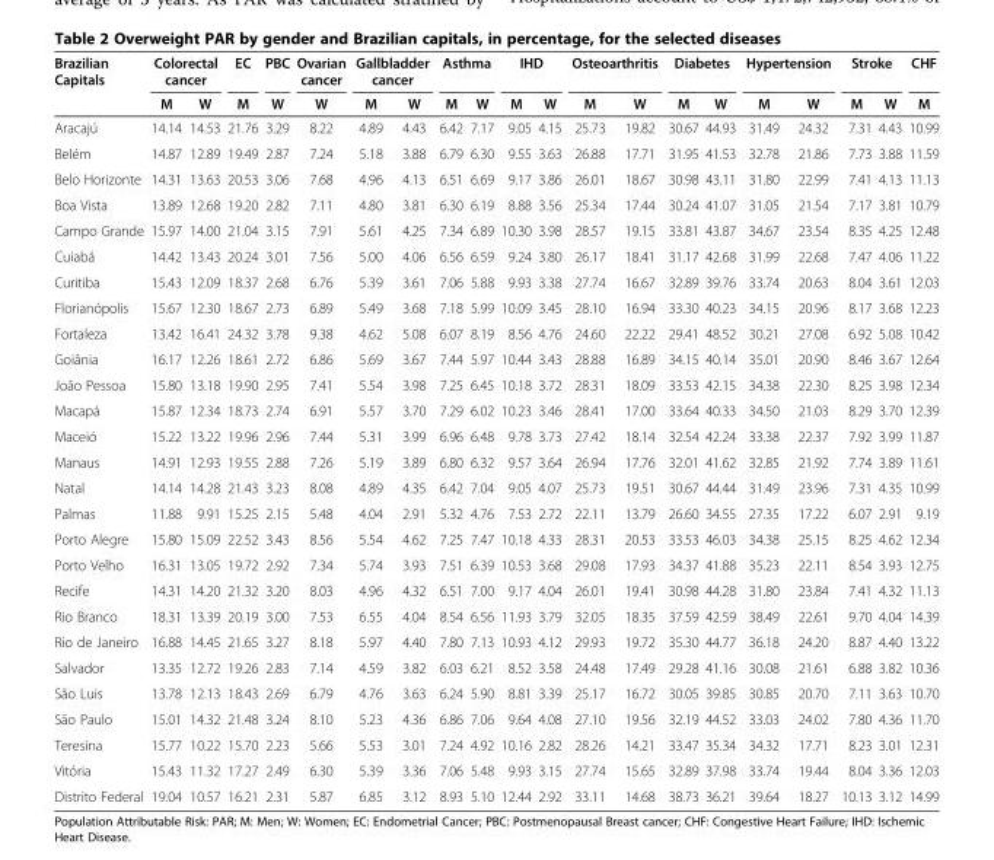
<table><thead><tr><td rowspan="2">Brazilian Capitals</td><td colspan="2">Colorectal cancer</td><td rowspan="2">EC M</td><td rowspan="2">PBC W</td><td rowspan="2">Ovarian cancer W</td><td colspan="2">Gallbladder cancer</td><td colspan="2">Asthma</td><td colspan="2">IHD</td><td colspan="2">Osteoarthritis</td><td colspan="2">Diabetes</td><td colspan="2">Hypertension</td><td colspan="2">Stroke</td><td rowspan="2">CHF M</td></tr><tr><td>M</td><td>W</td><td>M</td><td>W</td><td>M</td><td>W</td><td>M</td><td>W</td><td>M</td><td>W</td><td>M</td><td>W</td><td>M</td><td>W</td><td>M</td><td>W</td></tr></thead><tbody><tr><td>Aracajú</td><td>14.14</td><td>14.53</td><td>21.76</td><td>3.29</td><td>8.22</td><td>4.89</td><td>4.43</td><td>6.42</td><td>7.17</td><td>9.05</td><td>4.15</td><td>25.73</td><td>19.82</td><td>30.67</td><td>44.93</td><td>31.49</td><td>24.32</td><td>7.31</td><td>4.43</td><td>10.99</td></tr><tr><td>Belém</td><td>14.87</td><td>12.89</td><td>19.49</td><td>2.87</td><td>7.24</td><td>5.18</td><td>3.88</td><td>6.79</td><td>6.30</td><td>9.55</td><td>3.63</td><td>26.88</td><td>17.71</td><td>31.95</td><td>41.53</td><td>32.78</td><td>21.86</td><td>7.73</td><td>3.88</td><td>11.59</td></tr><tr><td>Belo Horizonte</td><td>14.31</td><td>13.63</td><td>20.53</td><td>3.06</td><td>7.68</td><td>4.96</td><td>4.13</td><td>6.51</td><td>6.69</td><td>9.17</td><td>3.86</td><td>26.01</td><td>18.67</td><td>30.98</td><td>43.11</td><td>31.80</td><td>22.99</td><td>7.41</td><td>4.13</td><td>11.13</td></tr><tr><td>Boa Vista</td><td>13.89</td><td>12.68</td><td>19.20</td><td>2.82</td><td>7.11</td><td>4.80</td><td>3.81</td><td>6.30</td><td>6.19</td><td>8.88</td><td>3.56</td><td>25.34</td><td>17.44</td><td>30.24</td><td>41.07</td><td>31.05</td><td>21.54</td><td>7.17</td><td>3.81</td><td>10.79</td></tr><tr><td>Campo Grande</td><td>15.97</td><td>14.00</td><td>21.04</td><td>3.15</td><td>7.91</td><td>5.61</td><td>4.25</td><td>7.34</td><td>6.89</td><td>10.30</td><td>3.98</td><td>28.57</td><td>19.15</td><td>33.81</td><td>43.87</td><td>34.67</td><td>23.54</td><td>8.35</td><td>4.25</td><td>12.48</td></tr><tr><td>Cuiabá</td><td>14.42</td><td>13.43</td><td>20.24</td><td>3.01</td><td>7.56</td><td>5.00</td><td>4.06</td><td>6.56</td><td>6.59</td><td>9.24</td><td>3.80</td><td>26.17</td><td>18.41</td><td>31.17</td><td>42.68</td><td>31.99</td><td>22.68</td><td>7.47</td><td>4.06</td><td>11.22</td></tr><tr><td>Curitiba</td><td>15.43</td><td>12.09</td><td>18.37</td><td>2.68</td><td>6.76</td><td>5.39</td><td>3.61</td><td>7.06</td><td>5.88</td><td>9.93</td><td>3.38</td><td>27.74</td><td>16.67</td><td>32.89</td><td>39.76</td><td>33.74</td><td>20.63</td><td>8.04</td><td>3.61</td><td>12.03</td></tr><tr><td>Florianópolis</td><td>15.67</td><td>12.30</td><td>18.67</td><td>2.73</td><td>6.89</td><td>5.49</td><td>3.68</td><td>7.18</td><td>5.99</td><td>10.09</td><td>3.45</td><td>28.10</td><td>16.94</td><td>33.30</td><td>40.23</td><td>34.15</td><td>20.96</td><td>8.17</td><td>3.68</td><td>12.23</td></tr><tr><td>Fortaleza</td><td>13.42</td><td>16.41</td><td>24.32</td><td>3.78</td><td>9.38</td><td>4.62</td><td>5.08</td><td>6.07</td><td>8.19</td><td>8.56</td><td>4.76</td><td>24.60</td><td>22.22</td><td>29.41</td><td>48.52</td><td>30.21</td><td>27.08</td><td>6.92</td><td>5.08</td><td>10.42</td></tr><tr><td>Goiânia</td><td>16.17</td><td>12.26</td><td>18.61</td><td>2.72</td><td>6.86</td><td>5.69</td><td>3.67</td><td>7.44</td><td>5.97</td><td>10.44</td><td>3.43</td><td>28.88</td><td>16.89</td><td>34.15</td><td>40.14</td><td>35.01</td><td>20.90</td><td>8.46</td><td>3.67</td><td>12.64</td></tr><tr><td>João Pessoa</td><td>15.80</td><td>13.18</td><td>19.90</td><td>2.95</td><td>7.41</td><td>5.54</td><td>3.98</td><td>7.25</td><td>6.45</td><td>10.18</td><td>3.72</td><td>28.31</td><td>18.09</td><td>33.53</td><td>42.15</td><td>34.38</td><td>22.30</td><td>8.25</td><td>3.98</td><td>12.34</td></tr><tr><td>Macapá</td><td>15.87</td><td>12.34</td><td>18.73</td><td>2.74</td><td>6.91</td><td>5.57</td><td>3.70</td><td>7.29</td><td>6.02</td><td>10.23</td><td>3.46</td><td>28.41</td><td>17.00</td><td>33.64</td><td>40.33</td><td>34.50</td><td>21.03</td><td>8.29</td><td>3.70</td><td>12.39</td></tr><tr><td>Maceió</td><td>15.22</td><td>13.22</td><td>19.96</td><td>2.96</td><td>7.44</td><td>5.31</td><td>3.99</td><td>6.96</td><td>6.48</td><td>9.78</td><td>3.73</td><td>27.42</td><td>18.14</td><td>32.54</td><td>42.24</td><td>33.38</td><td>22.37</td><td>7.92</td><td>3.99</td><td>11.87</td></tr><tr><td>Manaus</td><td>14.91</td><td>12.93</td><td>19.55</td><td>2.88</td><td>7.26</td><td>5.19</td><td>3.89</td><td>6.80</td><td>6.32</td><td>9.57</td><td>3.64</td><td>26.94</td><td>17.76</td><td>32.01</td><td>41.62</td><td>32.85</td><td>21.92</td><td>7.74</td><td>3.89</td><td>11.61</td></tr><tr><td>Natal</td><td>14.14</td><td>14.28</td><td>21.43</td><td>3.23</td><td>8.08</td><td>4.89</td><td>4.35</td><td>6.42</td><td>7.04</td><td>9.05</td><td>4.07</td><td>25.73</td><td>19.51</td><td>30.67</td><td>44.44</td><td>31.49</td><td>23.96</td><td>7.31</td><td>4.35</td><td>10.99</td></tr><tr><td>Palmas</td><td>11.88</td><td>9.91</td><td>15.25</td><td>2.15</td><td>5.48</td><td>4.04</td><td>2.91</td><td>5.32</td><td>4.76</td><td>7.53</td><td>2.72</td><td>22.11</td><td>13.79</td><td>26.60</td><td>34.55</td><td>27.35</td><td>17.22</td><td>6.07</td><td>2.91</td><td>9.19</td></tr><tr><td>Porto Alegre</td><td>15.80</td><td>15.09</td><td>22.52</td><td>3.43</td><td>8.56</td><td>5.54</td><td>4.62</td><td>7.25</td><td>7.47</td><td>10.18</td><td>4.33</td><td>28.31</td><td>20.53</td><td>33.53</td><td>46.03</td><td>34.38</td><td>25.15</td><td>8.25</td><td>4.62</td><td>12.34</td></tr><tr><td>Porto Velho</td><td>16.31</td><td>13.05</td><td>19.72</td><td>2.92</td><td>7.34</td><td>5.74</td><td>3.93</td><td>7.51</td><td>6.39</td><td>10.53</td><td>3.68</td><td>29.08</td><td>17.93</td><td>34.37</td><td>41.88</td><td>35.23</td><td>22.11</td><td>8.54</td><td>3.93</td><td>12.75</td></tr><tr><td>Recife</td><td>14.31</td><td>14.20</td><td>21.32</td><td>3.20</td><td>8.03</td><td>4.96</td><td>4.32</td><td>6.51</td><td>7.00</td><td>9.17</td><td>4.04</td><td>26.01</td><td>19.41</td><td>30.98</td><td>44.28</td><td>31.80</td><td>23.84</td><td>7.41</td><td>4.32</td><td>11.13</td></tr><tr><td>Rio Branco</td><td>18.31</td><td>13.39</td><td>20.19</td><td>3.00</td><td>7.53</td><td>6.55</td><td>4.04</td><td>8.54</td><td>6.56</td><td>11.93</td><td>3.79</td><td>32.05</td><td>18.35</td><td>37.59</td><td>42.59</td><td>38.49</td><td>22.61</td><td>9.70</td><td>4.04</td><td>14.39</td></tr><tr><td>Rio de Janeiro</td><td>16.88</td><td>14.45</td><td>21.65</td><td>3.27</td><td>8.18</td><td>5.97</td><td>4.40</td><td>7.80</td><td>7.13</td><td>10.93</td><td>4.12</td><td>29.93</td><td>19.72</td><td>35.30</td><td>44.77</td><td>36.18</td><td>24.20</td><td>8.87</td><td>4.40</td><td>13.22</td></tr><tr><td>Salvador</td><td>13.35</td><td>12.72</td><td>19.26</td><td>2.83</td><td>7.14</td><td>4.59</td><td>3.82</td><td>6.03</td><td>6.21</td><td>8.52</td><td>3.58</td><td>24.48</td><td>17.49</td><td>29.28</td><td>41.16</td><td>30.08</td><td>21.61</td><td>6.88</td><td>3.82</td><td>10.36</td></tr><tr><td>São Luis</td><td>13.78</td><td>12.13</td><td>18.43</td><td>2.69</td><td>6.79</td><td>4.76</td><td>3.63</td><td>6.24</td><td>5.90</td><td>8.81</td><td>3.39</td><td>25.17</td><td>16.72</td><td>30.05</td><td>39.85</td><td>30.85</td><td>20.70</td><td>7.11</td><td>3.63</td><td>10.70</td></tr><tr><td>São Paulo</td><td>15.01</td><td>14.32</td><td>21.48</td><td>3.24</td><td>8.10</td><td>5.23</td><td>4.36</td><td>6.86</td><td>7.06</td><td>9.64</td><td>4.08</td><td>27.10</td><td>19.56</td><td>32.19</td><td>44.52</td><td>33.03</td><td>24.02</td><td>7.80</td><td>4.36</td><td>11.70</td></tr><tr><td>Teresina</td><td>15.77</td><td>10.22</td><td>15.70</td><td>2.23</td><td>5.66</td><td>5.53</td><td>3.01</td><td>7.24</td><td>4.92</td><td>10.16</td><td>2.82</td><td>28.26</td><td>14.21</td><td>33.47</td><td>35.34</td><td>34.32</td><td>17.71</td><td>8.23</td><td>3.01</td><td>12.31</td></tr><tr><td>Vitória</td><td>15.43</td><td>11.32</td><td>17.27</td><td>2.49</td><td>6.30</td><td>5.39</td><td>3.36</td><td>7.06</td><td>5.48</td><td>9.93</td><td>3.15</td><td>27.74</td><td>15.65</td><td>32.89</td><td>37.98</td><td>33.74</td><td>19.44</td><td>8.04</td><td>3.36</td><td>12.03</td></tr><tr><td>Distrito Federal</td><td>19.04</td><td>10.57</td><td>16.21</td><td>2.31</td><td>5.87</td><td>6.85</td><td>3.12</td><td>8.93</td><td>5.10</td><td>12.44</td><td>2.92</td><td>33.11</td><td>14.68</td><td>38.73</td><td>36.21</td><td>39.64</td><td>18.27</td><td>10.13</td><td>3.12</td><td>14.99</td></tr></tbody></table>